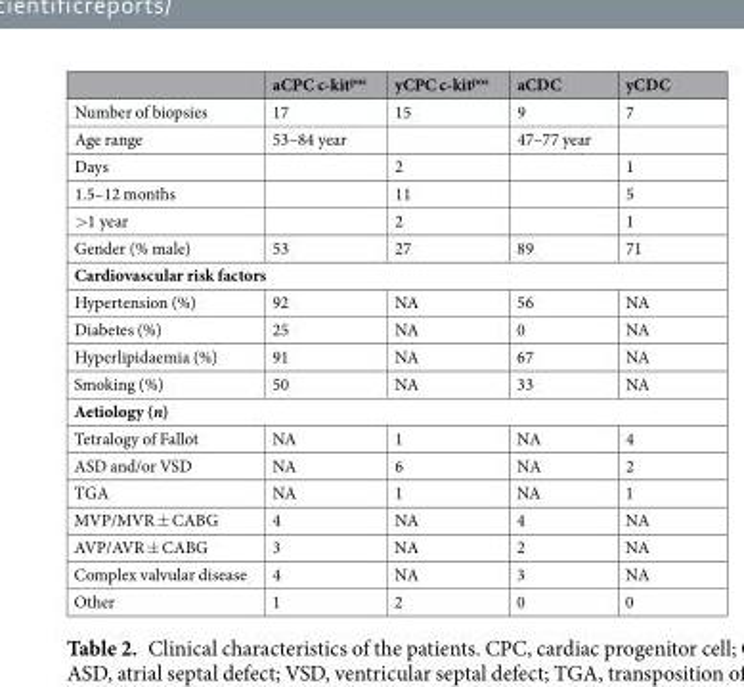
<table><thead><tr><td></td><td>aCPC c-kit<sup>pos</sup></td><td>yCPC c-kit<sup>pos</sup></td><td>aCDC</td><td>yCDC</td></tr></thead><tbody><tr><td>Number of biopsies</td><td>17</td><td>15</td><td>9</td><td>7</td></tr><tr><td>Age range</td><td>53–84 year</td><td></td><td>47–77 year</td><td></td></tr><tr><td>Days</td><td></td><td>2</td><td></td><td>1</td></tr><tr><td>1.5–12 months</td><td></td><td>11</td><td></td><td>5</td></tr><tr><td>&gt;1 year</td><td></td><td>2</td><td></td><td>1</td></tr><tr><td>Gender (% male)</td><td>53</td><td>27</td><td>89</td><td>71</td></tr><tr><td colspan="5">Cardiovascular risk factors</td></tr><tr><td>Hypertension (%)</td><td>92</td><td>NA</td><td>56</td><td>NA</td></tr><tr><td>Diabetes (%)</td><td>25</td><td>NA</td><td>0</td><td>NA</td></tr><tr><td>Hyperlipidaemia (%)</td><td>91</td><td>NA</td><td>67</td><td>NA</td></tr><tr><td>Smoking (%)</td><td>50</td><td>NA</td><td>33</td><td>NA</td></tr><tr><td colspan="5">Aetiology (n)</td></tr><tr><td>Tetralogy of Fallot</td><td>NA</td><td>1</td><td>NA</td><td>4</td></tr><tr><td>ASD and/or VSD</td><td>NA</td><td>6</td><td>NA</td><td>2</td></tr><tr><td>TGA</td><td>NA</td><td>1</td><td>NA</td><td>1</td></tr><tr><td>MVP/MVR ± CABG</td><td>4</td><td>NA</td><td>4</td><td>NA</td></tr><tr><td>AVP/AVR ± CABG</td><td>3</td><td>NA</td><td>2</td><td>NA</td></tr><tr><td>Complex valvular disease</td><td>4</td><td>NA</td><td>3</td><td>NA</td></tr><tr><td>Other</td><td>1</td><td>2</td><td>0</td><td>0</td></tr></tbody></table>